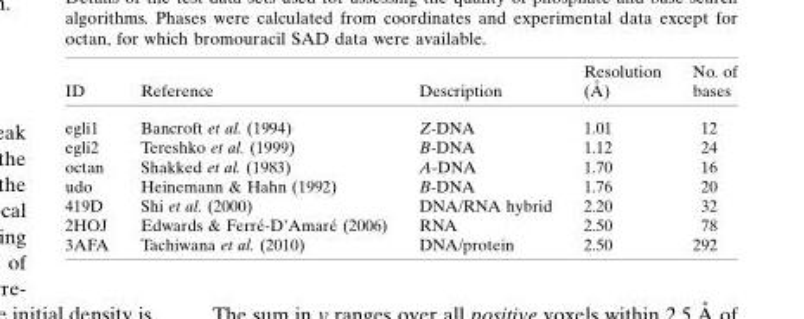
<table><thead><tr><td>ID</td><td>Reference</td><td>Description</td><td>Resolution (A˚ )</td><td>No. of bases</td></tr></thead><tbody><tr><td>egli1</td><td>Bancroft et al. (1994)</td><td>Z-DNA</td><td>1.01</td><td>12</td></tr><tr><td>egli2</td><td>Tereshko et al. (1999)</td><td>B-DNA</td><td>1.12</td><td>24</td></tr><tr><td>octan</td><td>Shakked et al. (1983)</td><td>A-DNA</td><td>1.70</td><td>16</td></tr><tr><td>udo</td><td>Heinemann &amp; Hahn (1992)</td><td>B-DNA</td><td>1.76</td><td>20</td></tr><tr><td>419D</td><td>Shi et al. (2000)</td><td>DNA/RNA hybrid</td><td>2.20</td><td>32</td></tr><tr><td>2HOJ</td><td>Edwards &amp; Ferre´-D’Amare´ (2006)</td><td>RNA</td><td>2.50</td><td>78</td></tr><tr><td>3AFA</td><td>Tachiwana et al. (2010)</td><td>DNA/protein</td><td>2.50</td><td>292</td></tr></tbody></table>